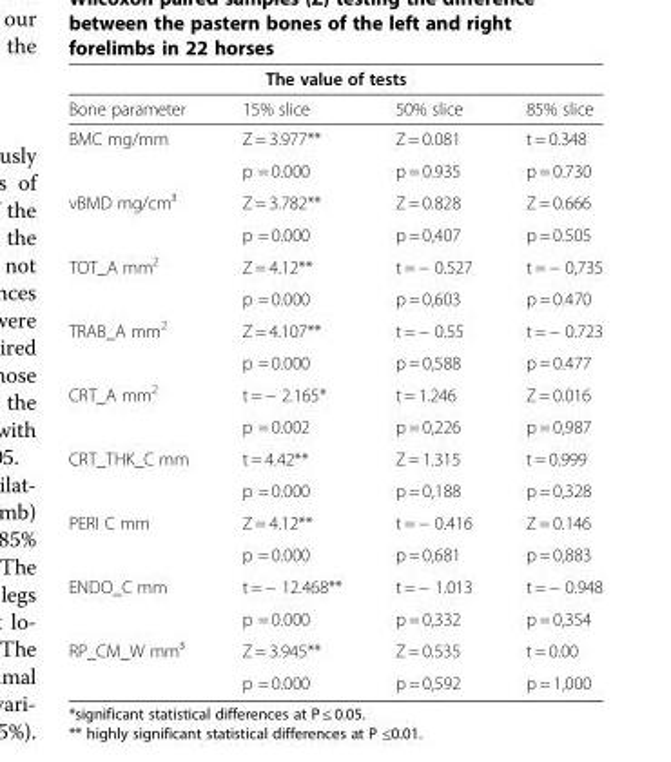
<table><thead><tr><td colspan="4">The value of tests</td></tr><tr><td>Bone parameter</td><td>15% slice</td><td>50% slice</td><td>85% slice</td></tr></thead><tbody><tr><td rowspan="2">BMC mg/mm</td><td>Z = 3.977**</td><td>Z = 0.081</td><td>t = 0.348</td></tr><tr><td>p = 0.000</td><td>p = 0.935</td><td>p = 0.730</td></tr><tr><td rowspan="2">vBMD mg/cm³</td><td>Z = 3.782**</td><td>Z = 0.828</td><td>Z = 0.666</td></tr><tr><td>p = 0.000</td><td>p = 0,407</td><td>p = 0.505</td></tr><tr><td rowspan="2">TOT_A mm<sup>2</sup></td><td>Z = 4.12**</td><td>t = − 0.527</td><td>t = − 0,735</td></tr><tr><td>p = 0.000</td><td>p = 0,603</td><td>p = 0.470</td></tr><tr><td rowspan="2">TRAB_A mm<sup>2</sup></td><td>Z = 4.107**</td><td>t = − 0.55</td><td>t = − 0.723</td></tr><tr><td>p = 0.000</td><td>p = 0,588</td><td>p = 0.477</td></tr><tr><td rowspan="2">CRT_A mm<sup>2</sup></td><td>t = − 2.165*</td><td>t = 1.246</td><td>Z = 0.016</td></tr><tr><td>p = 0.002</td><td>p = 0,226</td><td>p = 0,987</td></tr><tr><td rowspan="2">CRT_THK_C mm</td><td>t = 4.42**</td><td>Z = 1.315</td><td>t = 0.999</td></tr><tr><td>p = 0.000</td><td>p = 0,188</td><td>p = 0,328</td></tr><tr><td rowspan="2">PERI C mm</td><td>Z = 4.12**</td><td>t = − 0.416</td><td>Z = 0.146</td></tr><tr><td>p = 0.000</td><td>p = 0,681</td><td>p = 0,883</td></tr><tr><td rowspan="2">ENDO_C mm</td><td>t = − 12.468**</td><td>t = − 1.013</td><td>t = − 0.948</td></tr><tr><td>p = 0.000</td><td>p = 0,332</td><td>p = 0,354</td></tr><tr><td rowspan="2">RP_CM_W mm³</td><td>Z = 3.945**</td><td>Z = 0.535</td><td>t = 0.00</td></tr><tr><td>p = 0.000</td><td>p = 0,592</td><td>p = 1,000</td></tr></tbody></table>